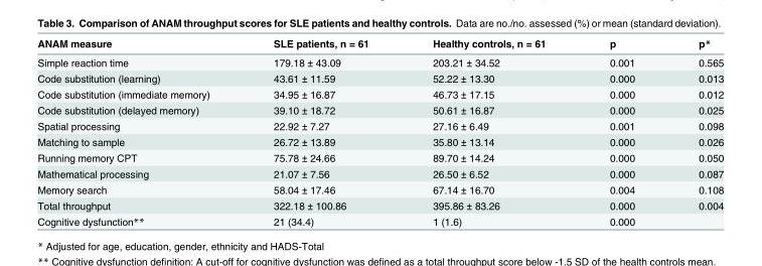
<table><thead><tr><td>ANAM measure</td><td>SLE patients, n = 61</td><td>Healthy controls, n = 61</td><td>p</td><td>p*</td></tr></thead><tbody><tr><td>Simple reaction time</td><td>179.18 ± 43.09</td><td>203.21 ± 34.52</td><td>0.001</td><td>0.565</td></tr><tr><td>Code substitution (learning)</td><td>43.61 ± 11.59</td><td>52.22 ± 13.30</td><td>0.000</td><td>0.013</td></tr><tr><td>Code substitution (immediate memory)</td><td>34.95 ± 16.87</td><td>46.73 ± 17.15</td><td>0.000</td><td>0.012</td></tr><tr><td>Code substitution (delayed memory)</td><td>39.10 ± 18.72</td><td>50.61 ± 16.87</td><td>0.000</td><td>0.025</td></tr><tr><td>Spatial processing</td><td>22.92 ± 7.27</td><td>27.16 ± 6.49</td><td>0.001</td><td>0.098</td></tr><tr><td>Matching to sample</td><td>26.72 ± 13.89</td><td>35.80 ± 13.14</td><td>0.000</td><td>0.026</td></tr><tr><td>Running memory CPT</td><td>75.78 ± 24.66</td><td>89.70 ± 14.24</td><td>0.000</td><td>0.050</td></tr><tr><td>Mathematical processing</td><td>21.07 ± 7.56</td><td>26.50 ± 6.52</td><td>0.000</td><td>0.087</td></tr><tr><td>Memory search</td><td>58.04 ± 17.46</td><td>67.14 ± 16.70</td><td>0.004</td><td>0.108</td></tr><tr><td>Total throughput</td><td>322.18 ± 100.86</td><td>395.86 ± 83.26</td><td>0.000</td><td>0.004</td></tr><tr><td>Cognitive dysfunction**</td><td>21 (34.4)</td><td>1 (1.6)</td><td>0.000</td><td></td></tr></tbody></table>